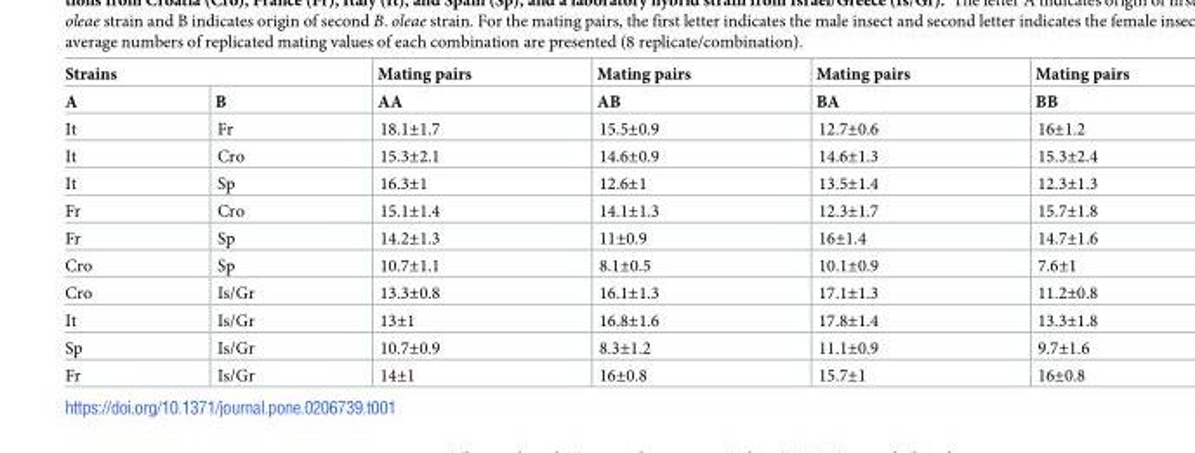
<table><thead><tr><td colspan="2">Strains</td><td rowspan="2">Mating pairs AA</td><td rowspan="2">Mating pairs AB</td><td rowspan="2">Mating pairs BA</td><td rowspan="2">Mating pairs BB</td></tr><tr><td>A</td><td>B</td></tr></thead><tbody><tr><td>It</td><td>Fr</td><td>18.1±1.7</td><td>15.5±0.9</td><td>12.7±0.6</td><td>16±1.2</td></tr><tr><td>It</td><td>Cro</td><td>15.3±2.1</td><td>14.6±0.9</td><td>14.6±1.3</td><td>15.3±2.4</td></tr><tr><td>It</td><td>Sp</td><td>16.3±1</td><td>12.6±1</td><td>13.5±1.4</td><td>12.3±1.3</td></tr><tr><td>Fr</td><td>Cro</td><td>15.1±1.4</td><td>14.1±1.3</td><td>12.3±1.7</td><td>15.7±1.8</td></tr><tr><td>Fr</td><td>Sp</td><td>14.2±1.3</td><td>11±0.9</td><td>16±1.4</td><td>14.7±1.6</td></tr><tr><td>Cro</td><td>Sp</td><td>10.7±1.1</td><td>8.1±0.5</td><td>10.1±0.9</td><td>7.6±1</td></tr><tr><td>Cro</td><td>Is/Gr</td><td>13.3±0.8</td><td>16.1±1.3</td><td>17.1±1.3</td><td>11.2±0.8</td></tr><tr><td>It</td><td>Is/Gr</td><td>13±1</td><td>16.8±1.6</td><td>17.8±1.4</td><td>13.3±1.8</td></tr><tr><td>Sp</td><td>Is/Gr</td><td>10.7±0.9</td><td>8.3±1.2</td><td>11.1±0.9</td><td>9.7±1.6</td></tr><tr><td>Fr</td><td>Is/Gr</td><td>14±1</td><td>16±0.8</td><td>15.7±1</td><td>16±0.8</td></tr></tbody></table>